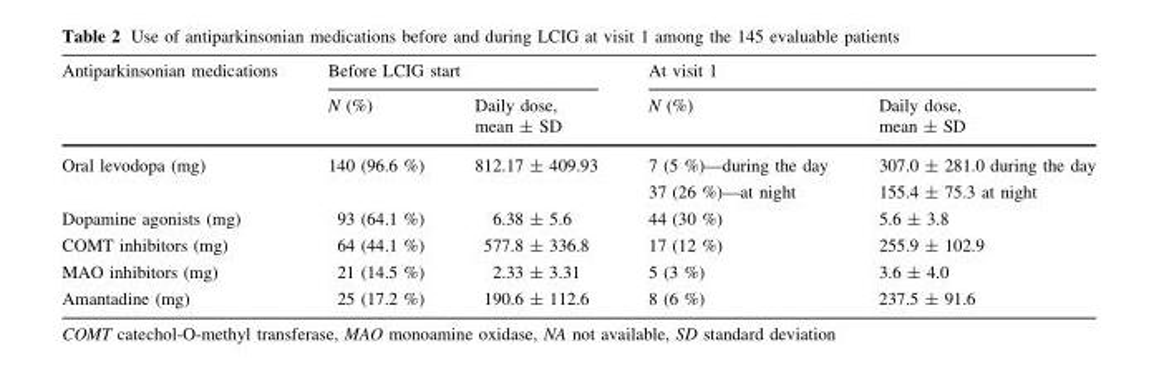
<table><thead><tr><td rowspan="2">Antiparkinsonian medications</td><td colspan="2">Before LCIG start</td><td colspan="2">At visit 1</td></tr><tr><td>N (%)</td><td>Daily dose, mean ± SD</td><td>N (%)</td><td>Daily dose, mean ± SD</td></tr></thead><tbody><tr><td>Oral levodopa (mg)</td><td>140 (96.6 %)</td><td>812.17 ± 409.93</td><td>7 (5 %)—during the day 37 (26 %)—at night</td><td>307.0 ± 281.0 during the day 155.4 ± 75.3 at night</td></tr><tr><td>Dopamine agonists (mg)</td><td>93 (64.1 %)</td><td>6.38 ± 5.6</td><td>44 (30 %)</td><td>5.6 ± 3.8</td></tr><tr><td>COMT inhibitors (mg)</td><td>64 (44.1 %)</td><td>577.8 ± 336.8</td><td>17 (12 %)</td><td>255.9 ± 102.9</td></tr><tr><td>MAO inhibitors (mg)</td><td>21 (14.5 %)</td><td>2.33 ± 3.31</td><td>5 (3 %)</td><td>3.6 ± 4.0</td></tr><tr><td>Amantadine (mg)</td><td>25 (17.2 %)</td><td>190.6 ± 112.6</td><td>8 (6 %)</td><td>237.5 ± 91.6</td></tr></tbody></table>